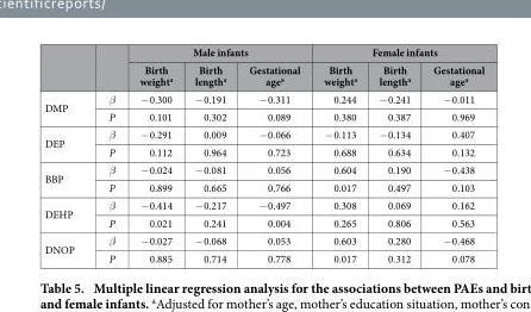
<table><thead><tr><td rowspan="2"></td><td rowspan="2"></td><td colspan="3">Male infants</td><td colspan="3">Female infants</td></tr><tr><td>Birth weight<sup>a</sup></td><td>Birth length<sup>a</sup></td><td>Gestational age<sup>a</sup></td><td>Birth weight<sup>a</sup></td><td>Birth length<sup>a</sup></td><td>Gestational age<sup>a</sup></td></tr></thead><tbody><tr><td rowspan="2">DMP</td><td>β</td><td>− 0.300</td><td>− 0.191</td><td>− 0.311</td><td>0.244</td><td>− 0.241</td><td>− 0.011</td></tr><tr><td>P</td><td>0.101</td><td>0.302</td><td>0.089</td><td>0.380</td><td>0.387</td><td>0.969</td></tr><tr><td rowspan="2">DEP</td><td>β</td><td>− 0.291</td><td>0.009</td><td>− 0.066</td><td>− 0.113</td><td>− 0.134</td><td>0.407</td></tr><tr><td>P</td><td>0.112</td><td>0.964</td><td>0.723</td><td>0.688</td><td>0.634</td><td>0.132</td></tr><tr><td rowspan="2">BBP</td><td>β</td><td>− 0.024</td><td>− 0.081</td><td>0.056</td><td>0.604</td><td>0.190</td><td>− 0.438</td></tr><tr><td>P</td><td>0.899</td><td>0.665</td><td>0.766</td><td>0.017</td><td>0.497</td><td>0.103</td></tr><tr><td rowspan="2">DEHP</td><td>β</td><td>− 0.414</td><td>− 0.217</td><td>− 0.497</td><td>0.308</td><td>0.069</td><td>0.162</td></tr><tr><td>P</td><td>0.021</td><td>0.241</td><td>0.004</td><td>0.265</td><td>0.806</td><td>0.563</td></tr><tr><td rowspan="2">DNOP</td><td>β</td><td>− 0.027</td><td>− 0.068</td><td>0.053</td><td>0.603</td><td>0.280</td><td>− 0.468</td></tr><tr><td>P</td><td>0.885</td><td>0.714</td><td>0.778</td><td>0.017</td><td>0.312</td><td>0.078</td></tr></tbody></table>